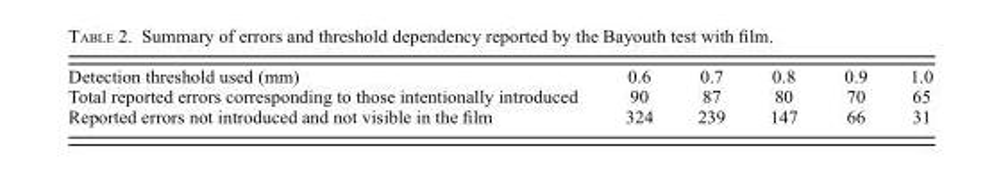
<table><tbody><tr><td>Detection threshold used (mm)</td><td>0.6</td><td>0.7</td><td>0.8</td><td>0.9</td><td>1.0</td></tr><tr><td>Total reported errors corresponding to those intentionally introduced</td><td>90</td><td>87</td><td>80</td><td>70</td><td>65</td></tr><tr><td>Reported errors not introduced and not visible in the film</td><td>324</td><td>239</td><td>147</td><td>66</td><td>31</td></tr></tbody></table>